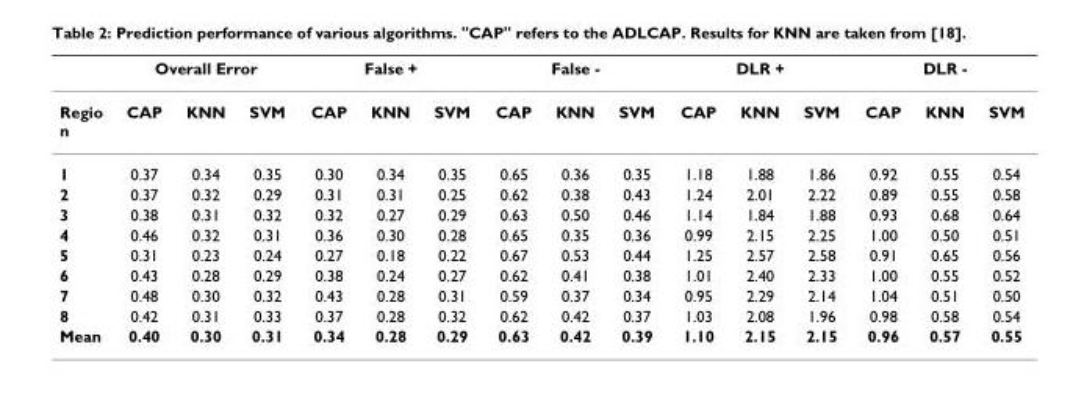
<table><thead><tr><td rowspan="2">Regio n</td><td colspan="3">Overall Error</td><td colspan="3">False +</td><td colspan="3">False -</td><td colspan="3">DLR +</td><td colspan="3">DLR -</td></tr><tr><td>CAP</td><td>KNN</td><td>SVM</td><td>CAP</td><td>KNN</td><td>SVM</td><td>CAP</td><td>KNN</td><td>SVM</td><td>CAP</td><td>KNN</td><td>SVM</td><td>CAP</td><td>KNN</td><td>SVM</td></tr></thead><tbody><tr><td>1</td><td>0.37</td><td>0.34</td><td>0.35</td><td>0.30</td><td>0.34</td><td>0.35</td><td>0.65</td><td>0.36</td><td>0.35</td><td>1.18</td><td>1.88</td><td>1.86</td><td>0.92</td><td>0.55</td><td>0.54</td></tr><tr><td>2</td><td>0.37</td><td>0.32</td><td>0.29</td><td>0.31</td><td>0.31</td><td>0.25</td><td>0.62</td><td>0.38</td><td>0.43</td><td>1.24</td><td>2.01</td><td>2.22</td><td>0.89</td><td>0.55</td><td>0.58</td></tr><tr><td>3</td><td>0.38</td><td>0.31</td><td>0.32</td><td>0.32</td><td>0.27</td><td>0.29</td><td>0.63</td><td>0.50</td><td>0.46</td><td>1.14</td><td>1.84</td><td>1.88</td><td>0.93</td><td>0.68</td><td>0.64</td></tr><tr><td>4</td><td>0.46</td><td>0.32</td><td>0.31</td><td>0.36</td><td>0.30</td><td>0.28</td><td>0.65</td><td>0.35</td><td>0.36</td><td>0.99</td><td>2.15</td><td>2.25</td><td>1.00</td><td>0.50</td><td>0.51</td></tr><tr><td>5</td><td>0.31</td><td>0.23</td><td>0.24</td><td>0.27</td><td>0.18</td><td>0.22</td><td>0.67</td><td>0.53</td><td>0.44</td><td>1.25</td><td>2.57</td><td>2.58</td><td>0.91</td><td>0.65</td><td>0.56</td></tr><tr><td>6</td><td>0.43</td><td>0.28</td><td>0.29</td><td>0.38</td><td>0.24</td><td>0.27</td><td>0.62</td><td>0.41</td><td>0.38</td><td>1.01</td><td>2.40</td><td>2.33</td><td>1.00</td><td>0.55</td><td>0.52</td></tr><tr><td>7</td><td>0.48</td><td>0.30</td><td>0.32</td><td>0.43</td><td>0.28</td><td>0.31</td><td>0.59</td><td>0.37</td><td>0.34</td><td>0.95</td><td>2.29</td><td>2.14</td><td>1.04</td><td>0.51</td><td>0.50</td></tr><tr><td>8</td><td>0.42</td><td>0.31</td><td>0.33</td><td>0.37</td><td>0.28</td><td>0.32</td><td>0.62</td><td>0.42</td><td>0.37</td><td>1.03</td><td>2.08</td><td>1.96</td><td>0.98</td><td>0.58</td><td>0.54</td></tr><tr><td>Mean</td><td>0.40</td><td>0.30</td><td>0.31</td><td>0.34</td><td>0.28</td><td>0.29</td><td>0.63</td><td>0.42</td><td>0.39</td><td>1.10</td><td>2.15</td><td>2.15</td><td>0.96</td><td>0.57</td><td>0.55</td></tr></tbody></table>